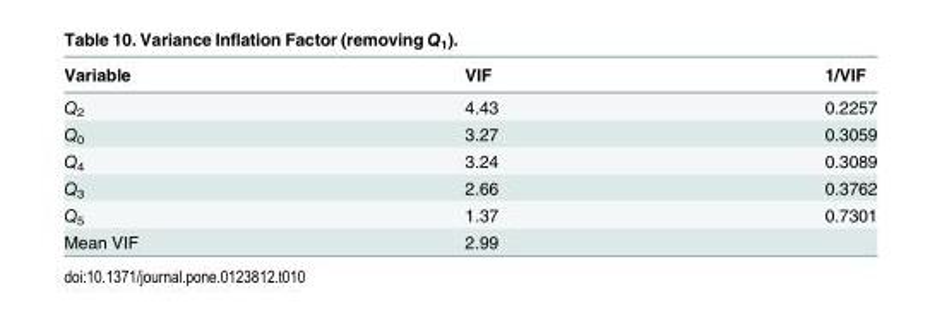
<table><thead><tr><td>Variable</td><td>VIF</td><td>1/VIF</td></tr></thead><tbody><tr><td>Q<sub>2</sub></td><td>4.43</td><td>0.2257</td></tr><tr><td>Q<sub>0</sub></td><td>3.27</td><td>0.3059</td></tr><tr><td>Q<sub>4</sub></td><td>3.24</td><td>0.3089</td></tr><tr><td>Q<sub>3</sub></td><td>2.66</td><td>0.3762</td></tr><tr><td>Q<sub>5</sub></td><td>1.37</td><td>0.7301</td></tr><tr><td>Mean VIF</td><td>2.99</td><td></td></tr></tbody></table>